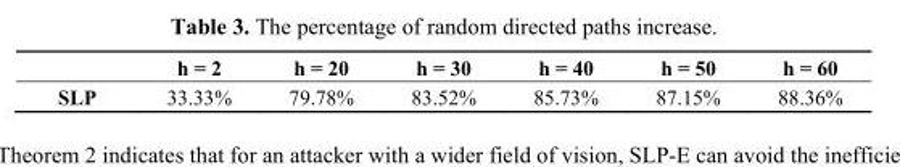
<table><thead><tr><td></td><td>h = 2</td><td>h = 20</td><td>h = 30</td><td>h = 40</td><td>h = 50</td><td>h = 60</td></tr></thead><tbody><tr><td>SLP</td><td>33.33%</td><td>79.78%</td><td>83.52%</td><td>85.73%</td><td>87.15%</td><td>88.36%</td></tr></tbody></table>